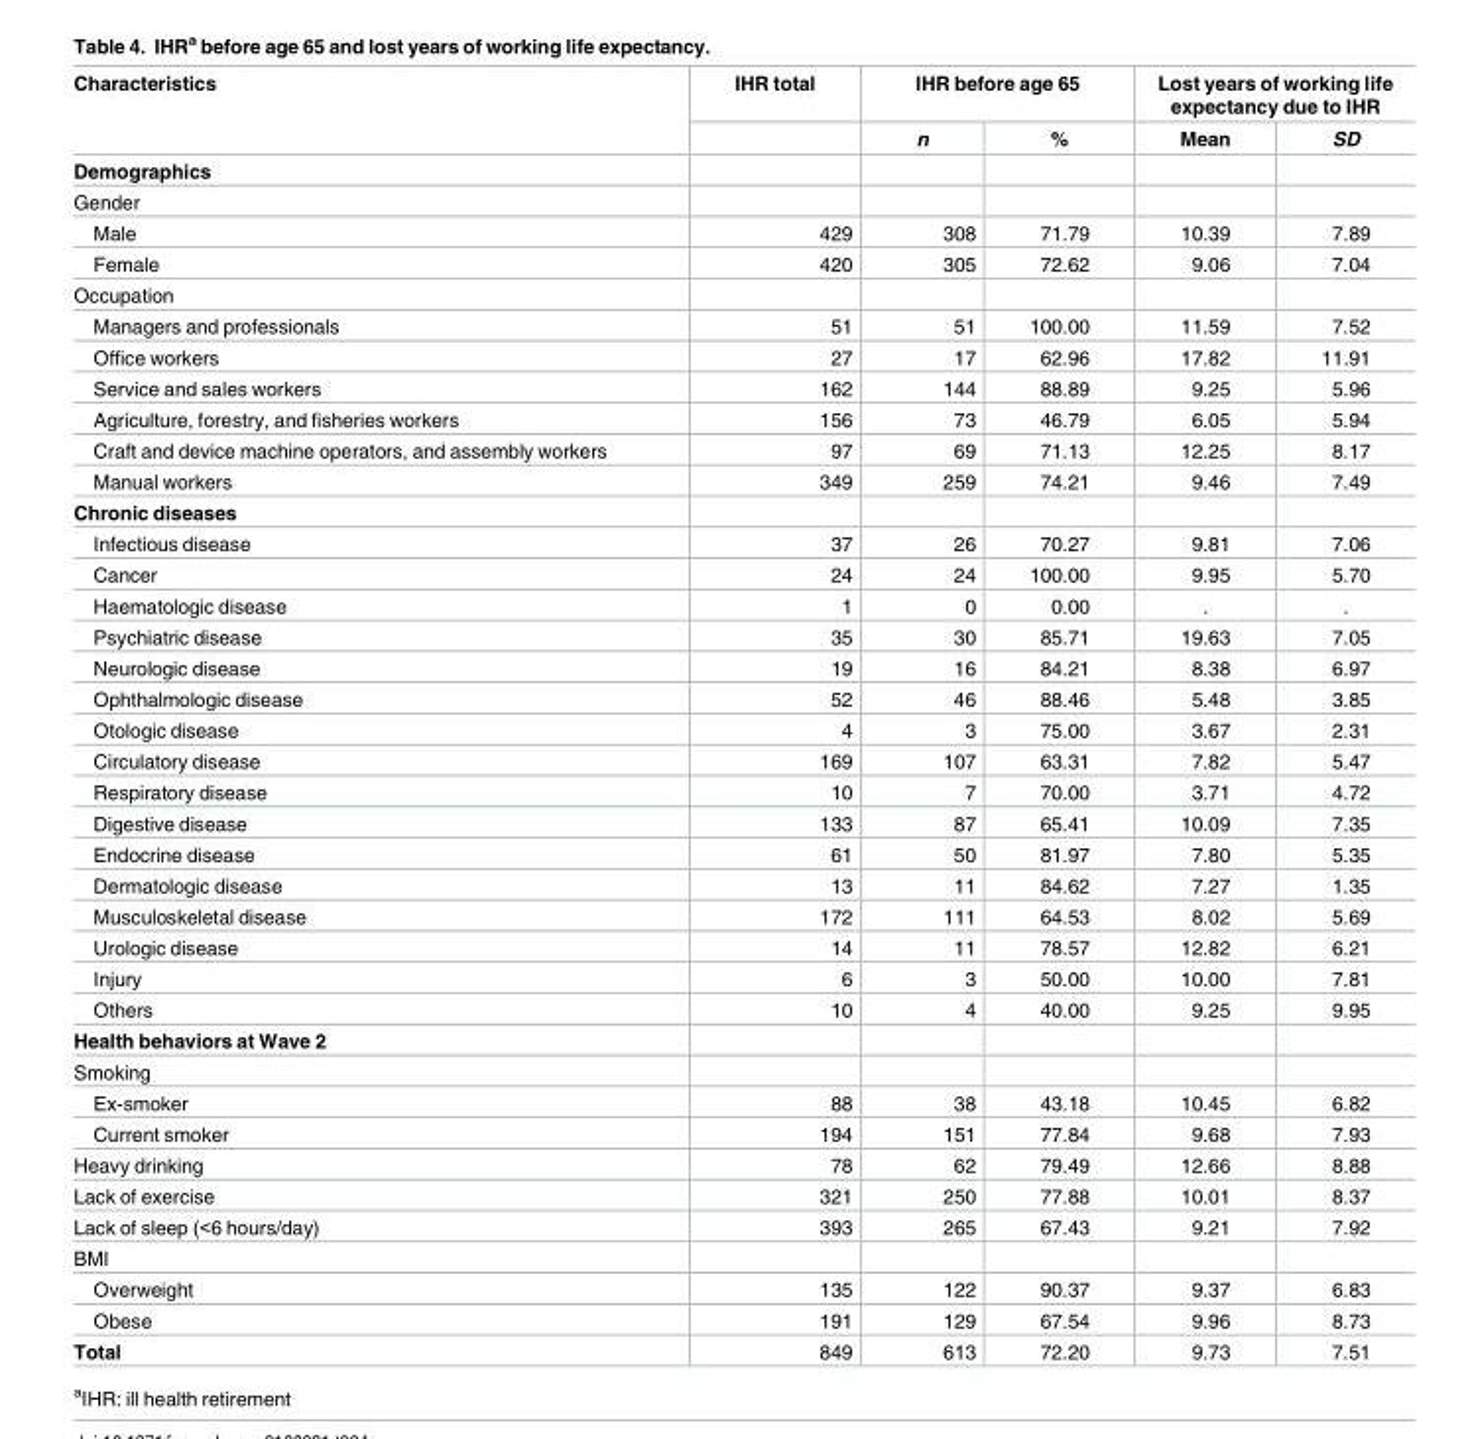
<table><thead><tr><td rowspan="2">Characteristics</td><td rowspan="2">IHR total</td><td colspan="2">IHR before age 65</td><td colspan="2">Lost years of working life expectancy due to IHR</td></tr><tr><td>n</td><td>%</td><td>Mean</td><td>SD</td></tr></thead><tbody><tr><td colspan="6">Demographics</td></tr><tr><td colspan="6">Gender</td></tr><tr><td>Male</td><td>429</td><td>308</td><td>71.79</td><td>10.39</td><td>7.89</td></tr><tr><td>Female</td><td>420</td><td>305</td><td>72.62</td><td>9.06</td><td>7.04</td></tr><tr><td colspan="6">Occupation</td></tr><tr><td>Managers and professionals</td><td>51</td><td>51</td><td>100.00</td><td>11.59</td><td>7.52</td></tr><tr><td>Office workers</td><td>27</td><td>17</td><td>62.96</td><td>17.82</td><td>11.91</td></tr><tr><td>Service and sales workers</td><td>162</td><td>144</td><td>88.89</td><td>9.25</td><td>5.96</td></tr><tr><td>Agriculture, forestry, and fisheries workers</td><td>156</td><td>73</td><td>46.79</td><td>6.05</td><td>5.94</td></tr><tr><td>Craft and device machine operators, and assembly workers</td><td>97</td><td>69</td><td>71.13</td><td>12.25</td><td>8.17</td></tr><tr><td>Manual workers</td><td>349</td><td>259</td><td>74.21</td><td>9.46</td><td>7.49</td></tr><tr><td colspan="6">Chronic diseases</td></tr><tr><td>Infectious disease</td><td>37</td><td>26</td><td>70.27</td><td>9.81</td><td>7.06</td></tr><tr><td>Cancer</td><td>24</td><td>24</td><td>100.00</td><td>9.95</td><td>5.70</td></tr><tr><td>Haematologic disease</td><td>1</td><td>0</td><td>0.00</td><td>.</td><td>.</td></tr><tr><td>Psychiatric disease</td><td>35</td><td>30</td><td>85.71</td><td>19.63</td><td>7.05</td></tr><tr><td>Neurologic disease</td><td>19</td><td>16</td><td>84.21</td><td>8.38</td><td>6.97</td></tr><tr><td>Ophthalmologic disease</td><td>52</td><td>46</td><td>88.46</td><td>5.48</td><td>3.85</td></tr><tr><td>Otologic disease</td><td>4</td><td>3</td><td>75.00</td><td>3.67</td><td>2.31</td></tr><tr><td>Circulatory disease</td><td>169</td><td>107</td><td>63.31</td><td>7.82</td><td>5.47</td></tr><tr><td>Respiratory disease</td><td>10</td><td>7</td><td>70.00</td><td>3.71</td><td>4.72</td></tr><tr><td>Digestive disease</td><td>133</td><td>87</td><td>65.41</td><td>10.09</td><td>7.35</td></tr><tr><td>Endocrine disease</td><td>61</td><td>50</td><td>81.97</td><td>7.80</td><td>5.35</td></tr><tr><td>Dermatologic disease</td><td>13</td><td>11</td><td>84.62</td><td>7.27</td><td>1.35</td></tr><tr><td>Musculoskeletal disease</td><td>172</td><td>111</td><td>64.53</td><td>8.02</td><td>5.69</td></tr><tr><td>Urologic disease</td><td>14</td><td>11</td><td>78.57</td><td>12.82</td><td>6.21</td></tr><tr><td>Injury</td><td>6</td><td>3</td><td>50.00</td><td>10.00</td><td>7.81</td></tr><tr><td>Others</td><td>10</td><td>4</td><td>40.00</td><td>9.25</td><td>9.95</td></tr><tr><td colspan="6">Health behaviors at Wave 2</td></tr><tr><td colspan="6">Smoking</td></tr><tr><td>Ex-smoker</td><td>88</td><td>38</td><td>43.18</td><td>10.45</td><td>6.82</td></tr><tr><td>Current smoker</td><td>194</td><td>151</td><td>77.84</td><td>9.68</td><td>7.93</td></tr><tr><td>Heavy drinking</td><td>78</td><td>62</td><td>79.49</td><td>12.66</td><td>8.88</td></tr><tr><td>Lack of exercise</td><td>321</td><td>250</td><td>77.88</td><td>10.01</td><td>8.37</td></tr><tr><td>Lack of sleep (&lt;6 hours/day)</td><td>393</td><td>265</td><td>67.43</td><td>9.21</td><td>7.92</td></tr><tr><td colspan="6">BMI</td></tr><tr><td>Overweight</td><td>135</td><td>122</td><td>90.37</td><td>9.37</td><td>6.83</td></tr><tr><td>Obese</td><td>191</td><td>129</td><td>67.54</td><td>9.96</td><td>8.73</td></tr><tr><td>Total</td><td>849</td><td>613</td><td>72.20</td><td>9.73</td><td>7.51</td></tr></tbody></table>